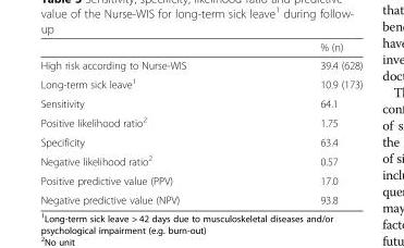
<table><thead><tr><td></td><td>% (n)</td></tr></thead><tbody><tr><td>High risk according to Nurse-WIS</td><td>39.4 (628)</td></tr><tr><td>Long-term sick leave<sup>1</sup></td><td>10.9 (173)</td></tr><tr><td>Sensitivity</td><td>64.1</td></tr><tr><td>Positive likelihood ratio<sup>2</sup></td><td>1.75</td></tr><tr><td>Specificity</td><td>63.4</td></tr><tr><td>Negative likelihood ratio<sup>2</sup></td><td>0.57</td></tr><tr><td>Positive predictive value (PPV)</td><td>17.0</td></tr><tr><td>Negative predictive value (NPV)</td><td>93.8</td></tr></tbody></table>